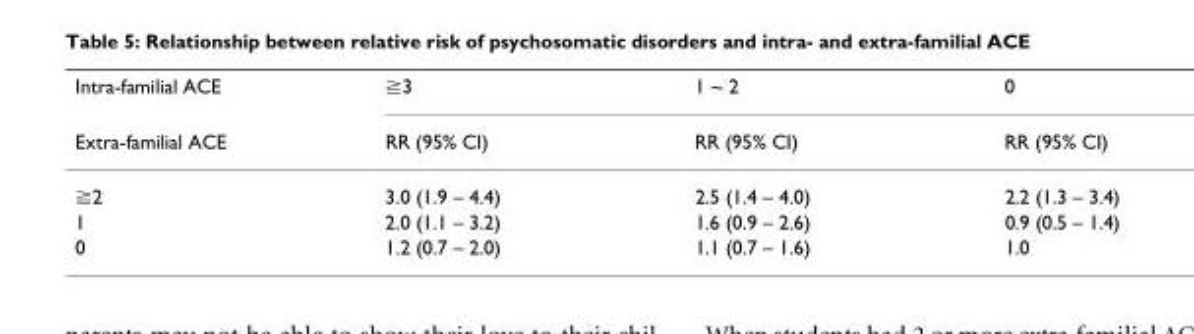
<table><thead><tr><td rowspan="2">Intra-familial ACE Extra-familial ACE</td><td rowspan="2">≧3 RR (95% CI)</td><td rowspan="2">1 ~ 2 RR (95% CI)</td><td rowspan="2">0 RR (95% CI)</td></tr><tr></tr></thead><tbody><tr><td>≧2</td><td>3.0 (1.9 – 4.4)</td><td>2.5 (1.4 – 4.0)</td><td>2.2 (1.3 – 3.4)</td></tr><tr><td>1</td><td>2.0 (1.1 – 3.2)</td><td>1.6 (0.9 – 2.6)</td><td>0.9 (0.5 – 1.4)</td></tr><tr><td>0</td><td>1.2 (0.7 – 2.0)</td><td>1.1 (0.7 – 1.6)</td><td>1.0</td></tr></tbody></table>